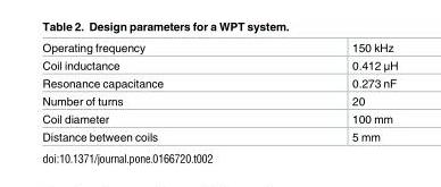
<table><tbody><tr><td>Operating frequency</td><td>150 kHz</td></tr><tr><td>Coil inductance</td><td>0.412 μH</td></tr><tr><td>Resonance capacitance</td><td>0.273 nF</td></tr><tr><td>Number of turns</td><td>20</td></tr><tr><td>Coil diameter</td><td>100 mm</td></tr><tr><td>Distance between coils</td><td>5 mm</td></tr></tbody></table>